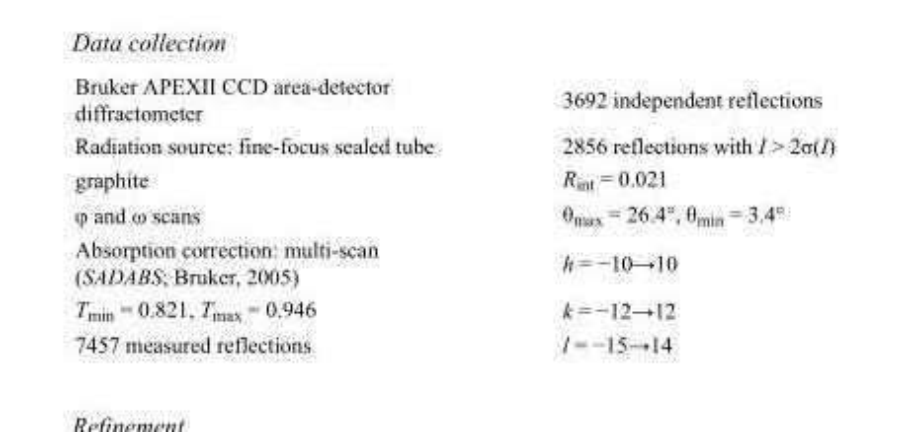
<table><tbody><tr><td>Bruker APEXII CCD area-detector diffractometer</td><td>3692 independent reflections</td></tr><tr><td>Radiation source: fine-focus sealed tube</td><td>2856 reflections with I &gt; 2σ(I)</td></tr><tr><td>graphite</td><td>R<sub>int</sub> = 0.021</td></tr><tr><td>φ and ω scans</td><td>θ<sub>max</sub> = 26.4°, θ<sub>min</sub> = 3.4°</td></tr><tr><td>Absorption correction: multi-scan (SADABS; Bruker, 2005)</td><td>h = −10→10</td></tr><tr><td>T<sub>min</sub> = 0.821, T<sub>max</sub> = 0.946</td><td>k = −12→12</td></tr><tr><td>7457 measured reflections</td><td>l = −15→14</td></tr></tbody></table>